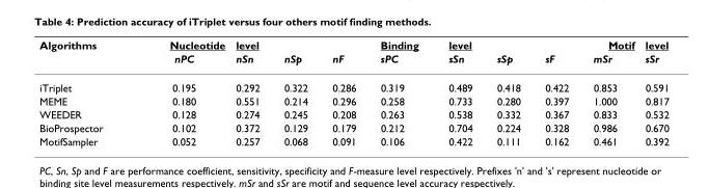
<table><thead><tr><td rowspan="2">Algorithms</td><td rowspan="2">Nucleotide nPC</td><td rowspan="2">level nSn</td><td rowspan="2">nSp</td><td rowspan="2">nF</td><td rowspan="2">Binding sPC</td><td rowspan="2">level sSn</td><td rowspan="2">sSp</td><td rowspan="2">sF</td><td rowspan="2">Motif mSr</td><td rowspan="2">level sSr</td></tr><tr></tr></thead><tbody><tr><td>iTriplet</td><td>0.195</td><td>0.292</td><td>0.322</td><td>0.286</td><td>0.319</td><td>0.489</td><td>0.418</td><td>0.422</td><td>0.853</td><td>0.591</td></tr><tr><td>MEME</td><td>0.180</td><td>0.551</td><td>0.214</td><td>0.296</td><td>0.258</td><td>0.733</td><td>0.280</td><td>0.397</td><td>1.000</td><td>0.817</td></tr><tr><td>WEEDER</td><td>0.128</td><td>0.274</td><td>0.245</td><td>0.208</td><td>0.263</td><td>0.538</td><td>0.332</td><td>0.367</td><td>0.833</td><td>0.532</td></tr><tr><td>BioProspector</td><td>0.102</td><td>0.372</td><td>0.129</td><td>0.179</td><td>0.212</td><td>0.704</td><td>0.224</td><td>0.328</td><td>0.986</td><td>0.670</td></tr><tr><td>MotifSampler</td><td>0.052</td><td>0.257</td><td>0.068</td><td>0.091</td><td>0.106</td><td>0.422</td><td>0.111</td><td>0.162</td><td>0.461</td><td>0.392</td></tr></tbody></table>